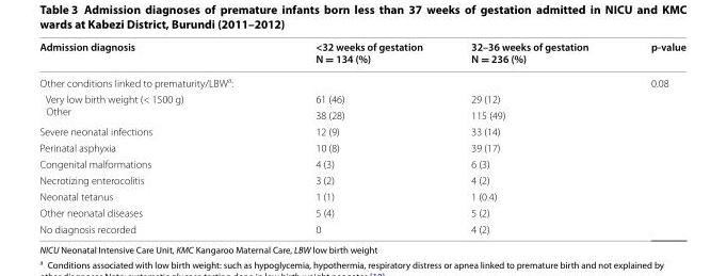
<table><thead><tr><td>Admission diagnosis</td><td>&lt;32 weeks of gestation N = 134 (%)</td><td>32–36 weeks of gestation N = 236 (%)</td><td>p-value</td></tr></thead><tbody><tr><td colspan="3">Other conditions linked to prematurity/LBW<sup>a</sup>:</td><td rowspan="10">0.08</td></tr><tr><td rowspan="2">Very low birth weight (&lt; 1500 g) Other</td><td>61 (46)</td><td>29 (12)</td></tr><tr><td>38 (28)</td><td>115 (49)</td></tr><tr><td>Severe neonatal infections</td><td>12 (9)</td><td>33 (14)</td></tr><tr><td>Perinatal asphyxia</td><td>10 (8)</td><td>39 (17)</td></tr><tr><td>Congenital malformations</td><td>4 (3)</td><td>6 (3)</td></tr><tr><td>Necrotizing enterocolitis</td><td>3 (2)</td><td>4 (2)</td></tr><tr><td>Neonatal tetanus</td><td>1 (1)</td><td>1 (0.4)</td></tr><tr><td>Other neonatal diseases</td><td>5 (4)</td><td>5 (2)</td></tr><tr><td>No diagnosis recorded</td><td>0</td><td>4 (2)</td></tr></tbody></table>